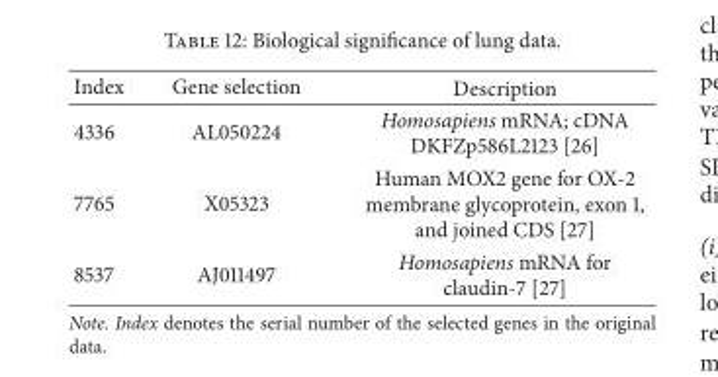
<table><thead><tr><td>Index</td><td>Gene selection</td><td>Description</td></tr></thead><tbody><tr><td>4336</td><td>AL050224</td><td>Homosapiens mRNA; cDNA DKFZp586L2123 [26]</td></tr><tr><td>7765</td><td>X05323</td><td>Human MOX2 gene for OX-2 membrane glycoprotein, exon 1, and joined CDS [27]</td></tr><tr><td>8537</td><td>AJ011497</td><td>Homosapiens mRNA for claudin-7 [27]</td></tr></tbody></table>